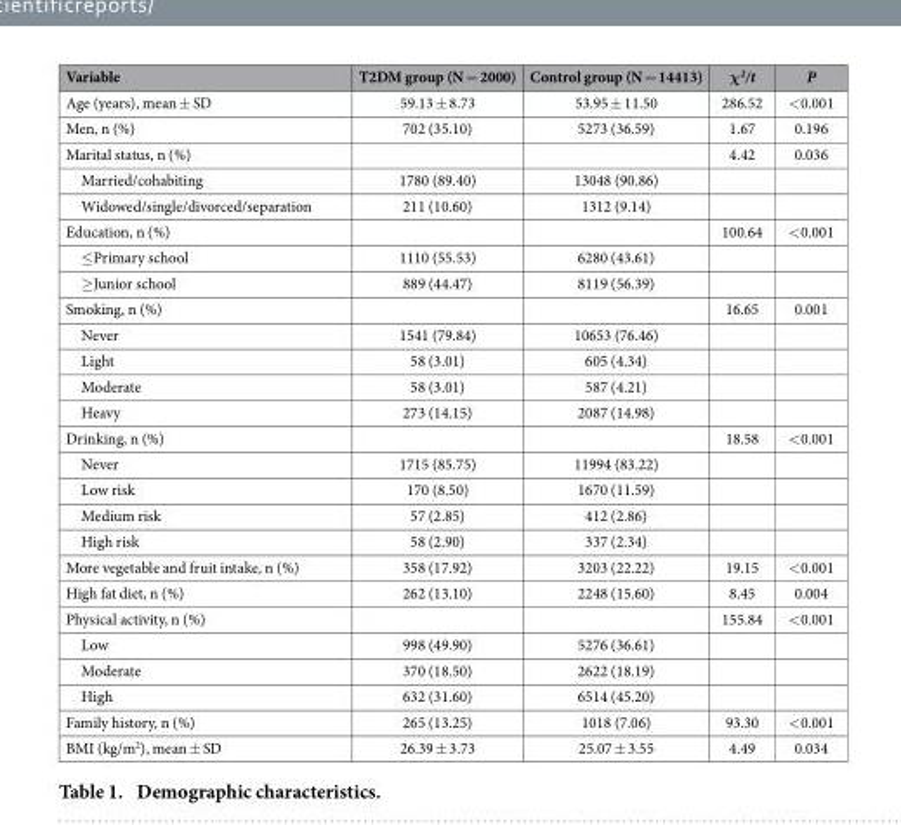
<table><thead><tr><td>Variable</td><td>T2DM group (N = 2000)</td><td>Control group (N = 14413)</td><td>χ<sup>2</sup>/t</td><td>P</td></tr></thead><tbody><tr><td>Age (years), mean ± SD</td><td>59.13 ± 8.73</td><td>53.95 ± 11.50</td><td>286.52</td><td>&lt; 0.001</td></tr><tr><td>Men, n (%)</td><td>702 (35.10)</td><td>5273 (36.59)</td><td>1.67</td><td>0.196</td></tr><tr><td>Marital status, n (%)</td><td></td><td></td><td>4.42</td><td>0.036</td></tr><tr><td>Married/cohabiting</td><td>1780 (89.40)</td><td>13048 (90.86)</td><td></td><td></td></tr><tr><td>Widowed/single/divorced/separation</td><td>211 (10.60)</td><td>1312 (9.14)</td><td></td><td></td></tr><tr><td>Education, n (%)</td><td></td><td></td><td>100.64</td><td>&lt; 0.001</td></tr><tr><td>≤ Primary school</td><td>1110 (55.53)</td><td>6280 (43.61)</td><td></td><td></td></tr><tr><td>≥ Junior school</td><td>889 (44.47)</td><td>8119 (56.39)</td><td></td><td></td></tr><tr><td>Smoking, n (%)</td><td></td><td></td><td>16.65</td><td>0.001</td></tr><tr><td>Never</td><td>1541 (79.84)</td><td>10653 (76.46)</td><td></td><td></td></tr><tr><td>Light</td><td>58 (3.01)</td><td>605 (4.34)</td><td></td><td></td></tr><tr><td>Moderate</td><td>58 (3.01)</td><td>587 (4.21)</td><td></td><td></td></tr><tr><td>Heavy</td><td>273 (14.15)</td><td>2087 (14.98)</td><td></td><td></td></tr><tr><td>Drinking, n (%)</td><td></td><td></td><td>18.58</td><td>&lt; 0.001</td></tr><tr><td>Never</td><td>1715 (85.75)</td><td>11994 (83.22)</td><td></td><td></td></tr><tr><td>Low risk</td><td>170 (8.50)</td><td>1670 (11.59)</td><td></td><td></td></tr><tr><td>Medium risk</td><td>57 (2.85)</td><td>412 (2.86)</td><td></td><td></td></tr><tr><td>High risk</td><td>58 (2.90)</td><td>337 (2.34)</td><td></td><td></td></tr><tr><td>More vegetable and fruit intake, n (%)</td><td>358 (17.92)</td><td>3203 (22.22)</td><td>19.15</td><td>&lt; 0.001</td></tr><tr><td>High fat diet, n (%)</td><td>262 (13.10)</td><td>2248 (15.60)</td><td>8.45</td><td>0.004</td></tr><tr><td>Physical activity, n (%)</td><td></td><td></td><td>155.84</td><td>&lt; 0.001</td></tr><tr><td>Low</td><td>998 (49.90)</td><td>5276 (36.61)</td><td></td><td></td></tr><tr><td>Moderate</td><td>370 (18.50)</td><td>2622 (18.19)</td><td></td><td></td></tr><tr><td>High</td><td>632 (31.60)</td><td>6514 (45.20)</td><td></td><td></td></tr><tr><td>Family history, n (%)</td><td>265 (13.25)</td><td>1018 (7.06)</td><td>93.30</td><td>&lt; 0.001</td></tr><tr><td>BMI (kg/m<sup>2</sup>), mean ± SD</td><td>26.39 ± 3.73</td><td>25.07 ± 3.55</td><td>4.49</td><td>0.034</td></tr></tbody></table>